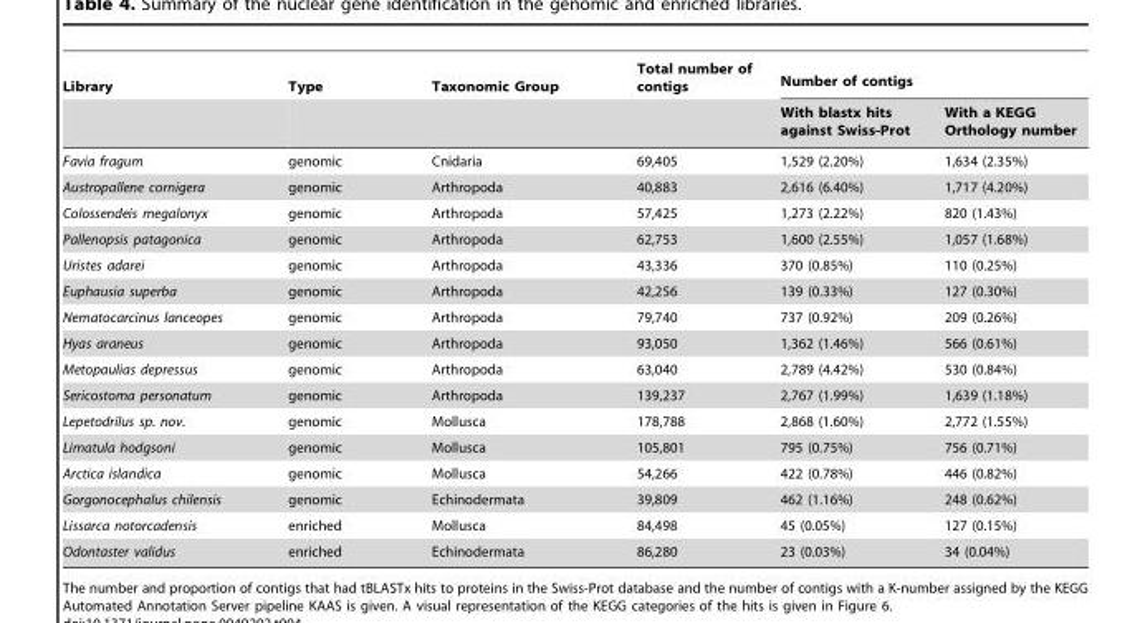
<table><thead><tr><td rowspan="2">Library</td><td rowspan="2">Type</td><td rowspan="2">Taxonomic Group</td><td rowspan="2">Total number of contigs</td><td colspan="2">Number of contigs</td></tr><tr><td>With blastx hits against Swiss-Prot</td><td>With a KEGG Orthology number</td></tr></thead><tbody><tr><td>Favia fragum</td><td>genomic</td><td>Cnidaria</td><td>69,405</td><td>1,529 (2.20%)</td><td>1,634 (2.35%)</td></tr><tr><td>Austropallene cornigera</td><td>genomic</td><td>Arthropoda</td><td>40,883</td><td>2,616 (6.40%)</td><td>1,717 (4.20%)</td></tr><tr><td>Colossendeis megalonyx</td><td>genomic</td><td>Arthropoda</td><td>57,425</td><td>1,273 (2.22%)</td><td>820 (1.43%)</td></tr><tr><td>Pallenopsis patagonica</td><td>genomic</td><td>Arthropoda</td><td>62,753</td><td>1,600 (2.55%)</td><td>1,057 (1.68%)</td></tr><tr><td>Uristes adarei</td><td>genomic</td><td>Arthropoda</td><td>43,336</td><td>370 (0.85%)</td><td>110 (0.25%)</td></tr><tr><td>Euphausia superba</td><td>genomic</td><td>Arthropoda</td><td>42,256</td><td>139 (0.33%)</td><td>127 (0.30%)</td></tr><tr><td>Nematocarcinus lanceopes</td><td>genomic</td><td>Arthropoda</td><td>79,740</td><td>737 (0.92%)</td><td>209 (0.26%)</td></tr><tr><td>Hyas araneus</td><td>genomic</td><td>Arthropoda</td><td>93,050</td><td>1,362 (1.46%)</td><td>566 (0.61%)</td></tr><tr><td>Metopaulias depressus</td><td>genomic</td><td>Arthropoda</td><td>63,040</td><td>2,789 (4.42%)</td><td>530 (0.84%)</td></tr><tr><td>Sericostoma personatum</td><td>genomic</td><td>Arthropoda</td><td>139,237</td><td>2,767 (1.99%)</td><td>1,639 (1.18%)</td></tr><tr><td>Lepetodrilus sp. nov.</td><td>genomic</td><td>Mollusca</td><td>178,788</td><td>2,868 (1.60%)</td><td>2,772 (1.55%)</td></tr><tr><td>Limatula hodgsoni</td><td>genomic</td><td>Mollusca</td><td>105,801</td><td>795 (0.75%)</td><td>756 (0.71%)</td></tr><tr><td>Arctica islandica</td><td>genomic</td><td>Mollusca</td><td>54,266</td><td>422 (0.78%)</td><td>446 (0.82%)</td></tr><tr><td>Gorgonocephalus chilensis</td><td>genomic</td><td>Echinodermata</td><td>39,809</td><td>462 (1.16%)</td><td>248 (0.62%)</td></tr><tr><td>Lissarca notorcadensis</td><td>enriched</td><td>Mollusca</td><td>84,498</td><td>45 (0.05%)</td><td>127 (0.15%)</td></tr><tr><td>Odontaster validus</td><td>enriched</td><td>Echinodermata</td><td>86,280</td><td>23 (0.03%)</td><td>34 (0.04%)</td></tr></tbody></table>